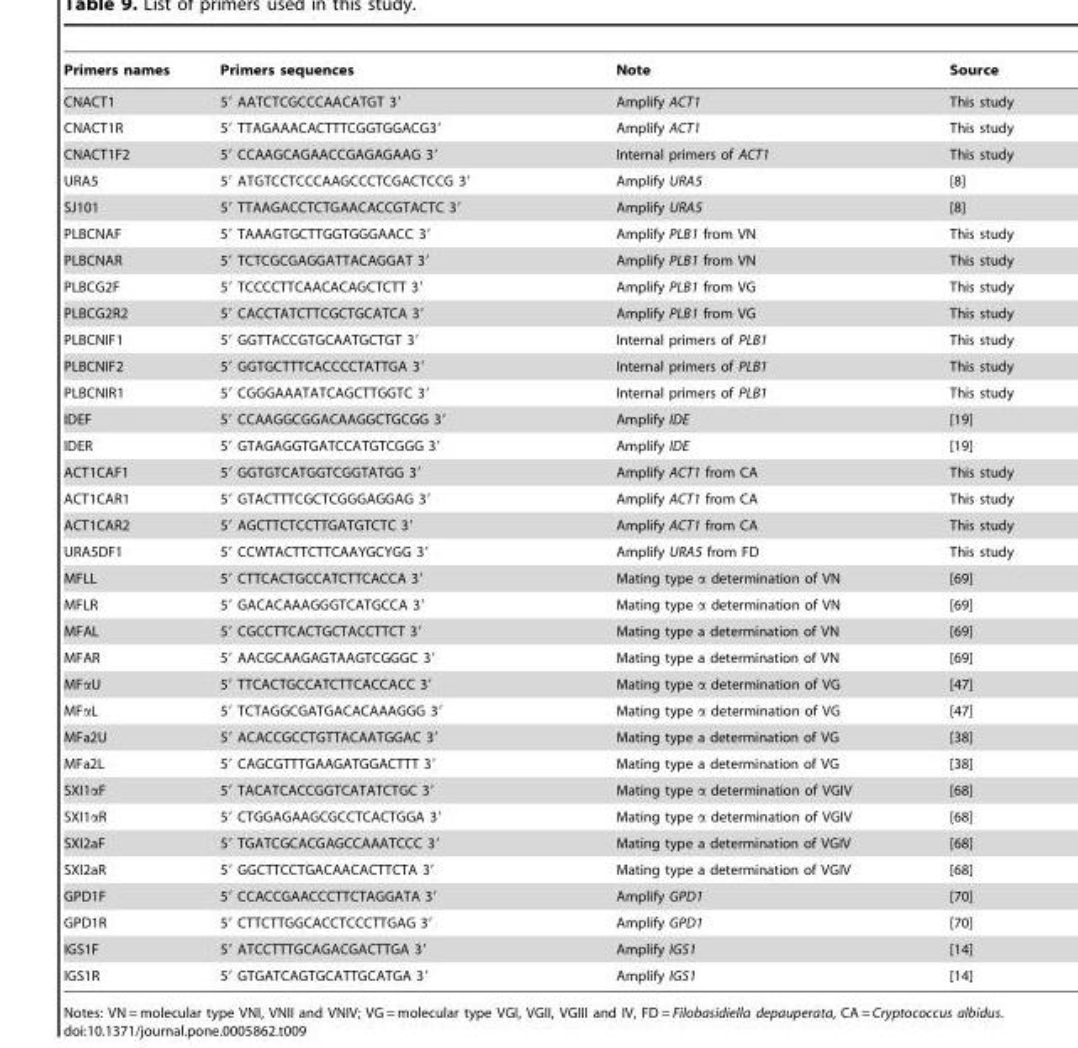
<table><thead><tr><td>Primers names</td><td>Primers sequences</td><td>Note</td><td>Source</td></tr></thead><tbody><tr><td>CNACT1</td><td>5′ AATCTCGCCCAACATGT 3′</td><td>Amplify ACT1</td><td>This study</td></tr><tr><td>CNACT1R</td><td>5′ TTAGAAACACTTTCGGTGGACG3′</td><td>Amplify ACT1</td><td>This study</td></tr><tr><td>CNACT1F2</td><td>5′ CCAAGCAGAACCGAGAGAAG 3′</td><td>Internal primers of ACT1</td><td>This study</td></tr><tr><td>URA5</td><td>5′ ATGTCCTCCCAAGCCCTCGACTCCG 3′</td><td>Amplify URA5</td><td>[8]</td></tr><tr><td>SJ101</td><td>5′ TTAAGACCTCTGAACACCGTACTC 3′</td><td>Amplify URA5</td><td>[8]</td></tr><tr><td>PLBCNAF</td><td>5′ TAAAGTGCTTGGTGGGAACC 3′</td><td>Amplify PLB1 from VN</td><td>This study</td></tr><tr><td>PLBCNAR</td><td>5′ TCTCGCGAGGATTACAGGAT 3′</td><td>Amplify PLB1 from VN</td><td>This study</td></tr><tr><td>PLBCG2F</td><td>5′ TCCCCTTCAACACAGCTCTT 3′</td><td>Amplify PLB1 from VG</td><td>This study</td></tr><tr><td>PLBCG2R2</td><td>5′ CACCTATCTTCGCTGCATCA 3′</td><td>Amplify PLB1 from VG</td><td>This study</td></tr><tr><td>PLBCNIF1</td><td>5′ GGTTACCGTGCAATGCTGT 3′</td><td>Internal primers of PLB1</td><td>This study</td></tr><tr><td>PLBCNIF2</td><td>5′ GGTGCTTTCACCCCTATTGA 3′</td><td>Internal primers of PLB1</td><td>This study</td></tr><tr><td>PLBCNIR1</td><td>5′ CGGGAAATATCAGCTTGGTC 3′</td><td>Internal primers of PLB1</td><td>This study</td></tr><tr><td>IDEF</td><td>5′ CCAAGGCGGACAAGGCTGCGG 3′</td><td>Amplify IDE</td><td>[19]</td></tr><tr><td>IDER</td><td>5′ GTAGAGGTGATCCATGTCGGG 3′</td><td>Amplify IDE</td><td>[19]</td></tr><tr><td>ACT1CAF1</td><td>5′ GGTGTCATGGTCGGTATGG 3′</td><td>Amplify ACT1 from CA</td><td>This study</td></tr><tr><td>ACT1CAR1</td><td>5′ GTACTTTCGCTCGGGAGGAG 3′</td><td>Amplify ACT1 from CA</td><td>This study</td></tr><tr><td>ACT1CAR2</td><td>5′ AGCTTCTCCTTGATGTCTC 3′</td><td>Amplify ACT1 from CA</td><td>This study</td></tr><tr><td>URA5DF1</td><td>5′ CCWTACTTCTTCAAYGCYGG 3′</td><td>Amplify URA5 from FD</td><td>This study</td></tr><tr><td>MFLL</td><td>5′ CTTCACTGCCATCTTCACCA 3′</td><td>Mating type α determination of VN</td><td>[69]</td></tr><tr><td>MFLR</td><td>5′ GACACAAAGGGTCATGCCA 3′</td><td>Mating type α determination of VN</td><td>[69]</td></tr><tr><td>MFAL</td><td>5′ CGCCTTCACTGCTACCTTCT 3′</td><td>Mating type a determination of VN</td><td>[69]</td></tr><tr><td>MFAR</td><td>5′ AACGCAAGAGTAAGTCGGGC 3′</td><td>Mating type a determination of VN</td><td>[69]</td></tr><tr><td>MFαU</td><td>5′ TTCACTGCCATCTTCACCACC 3′</td><td>Mating type α determination of VG</td><td>[47]</td></tr><tr><td>MFαL</td><td>5′ TCTAGGCGATGACACAAAGGG 3′</td><td>Mating type α determination of VG</td><td>[47]</td></tr><tr><td>MFa2U</td><td>5′ ACACCGCCTGTTACAATGGAC 3′</td><td>Mating type a determination of VG</td><td>[38]</td></tr><tr><td>MFa2L</td><td>5′ CAGCGTTTGAAGATGGACTTT 3′</td><td>Mating type a determination of VG</td><td>[38]</td></tr><tr><td>SXI1αF</td><td>5′ TACATCACCGGTCATATCTGC 3′</td><td>Mating type α determination of VGIV</td><td>[68]</td></tr><tr><td>SXI1αR</td><td>5′ CTGGAGAAGCGCCTCACTGGA 3′</td><td>Mating type α determination of VGIV</td><td>[68]</td></tr><tr><td>SXI2aF</td><td>5′ TGATCGCACGAGCCAAATCCC 3′</td><td>Mating type a determination of VGIV</td><td>[68]</td></tr><tr><td>SXI2aR</td><td>5′ GGCTTCCTGACAACACTTCTA 3′</td><td>Mating type a determination of VGIV</td><td>[68]</td></tr><tr><td>GPD1F</td><td>5′ CCACCGAACCCTTCTAGGATA 3′</td><td>Amplify GPD1</td><td>[70]</td></tr><tr><td>GPD1R</td><td>5′ CTTCTTGGCACCTCCCTTGAG 3′</td><td>Amplify GPD1</td><td>[70]</td></tr><tr><td>IGS1F</td><td>5′ ATCCTTTGCAGACGACTTGA 3′</td><td>Amplify IGS1</td><td>[14]</td></tr><tr><td>IGS1R</td><td>5′ GTGATCAGTGCATTGCATGA 3′</td><td>Amplify IGS1</td><td>[14]</td></tr></tbody></table>